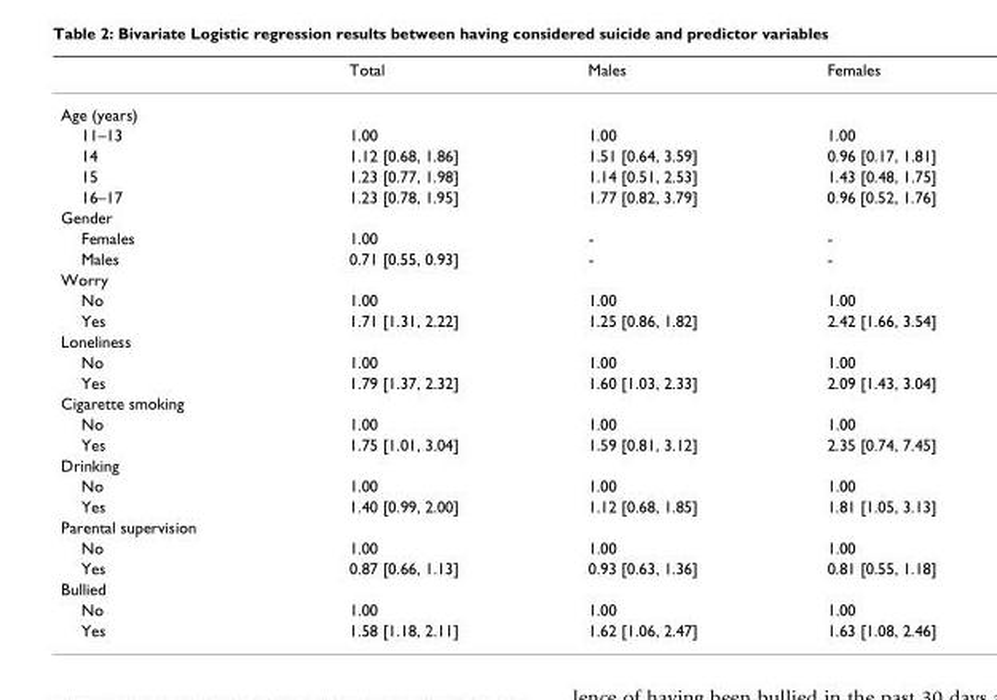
<table><thead><tr><td></td><td>Total</td><td>Males</td><td>Females</td></tr></thead><tbody><tr><td colspan="4">Age (years)</td></tr><tr><td>11–13</td><td>1.00</td><td>1.00</td><td>1.00</td></tr><tr><td>14</td><td>1.12 [0.68, 1.86]</td><td>1.51 [0.64, 3.59]</td><td>0.96 [0.17, 1.81]</td></tr><tr><td>15</td><td>1.23 [0.77, 1.98]</td><td>1.14 [0.51, 2.53]</td><td>1.43 [0.48, 1.75]</td></tr><tr><td>16–17</td><td>1.23 [0.78, 1.95]</td><td>1.77 [0.82, 3.79]</td><td>0.96 [0.52, 1.76]</td></tr><tr><td colspan="4">Gender</td></tr><tr><td>Females</td><td>1.00</td><td>-</td><td>-</td></tr><tr><td>Males</td><td>0.71 [0.55, 0.93]</td><td>-</td><td>-</td></tr><tr><td colspan="4">Worry</td></tr><tr><td>No</td><td>1.00</td><td>1.00</td><td>1.00</td></tr><tr><td>Yes</td><td>1.71 [1.31, 2.22]</td><td>1.25 [0.86, 1.82]</td><td>2.42 [1.66, 3.54]</td></tr><tr><td colspan="4">Loneliness</td></tr><tr><td>No</td><td>1.00</td><td>1.00</td><td>1.00</td></tr><tr><td>Yes</td><td>1.79 [1.37, 2.32]</td><td>1.60 [1.03, 2.33]</td><td>2.09 [1.43, 3.04]</td></tr><tr><td colspan="4">Cigarette smoking</td></tr><tr><td>No</td><td>1.00</td><td>1.00</td><td>1.00</td></tr><tr><td>Yes</td><td>1.75 [1.01, 3.04]</td><td>1.59 [0.81, 3.12]</td><td>2.35 [0.74, 7.45]</td></tr><tr><td colspan="4">Drinking</td></tr><tr><td>No</td><td>1.00</td><td>1.00</td><td>1.00</td></tr><tr><td>Yes</td><td>1.40 [0.99, 2.00]</td><td>1.12 [0.68, 1.85]</td><td>1.81 [1.05, 3.13]</td></tr><tr><td colspan="4">Parental supervision</td></tr><tr><td>No</td><td>1.00</td><td>1.00</td><td>1.00</td></tr><tr><td>Yes</td><td>0.87 [0.66, 1.13]</td><td>0.93 [0.63, 1.36]</td><td>0.81 [0.55, 1.18]</td></tr><tr><td colspan="4">Bullied</td></tr><tr><td>No</td><td>1.00</td><td>1.00</td><td>1.00</td></tr><tr><td>Yes</td><td>1.58 [1.18, 2.11]</td><td>1.62 [1.06, 2.47]</td><td>1.63 [1.08, 2.46]</td></tr></tbody></table>